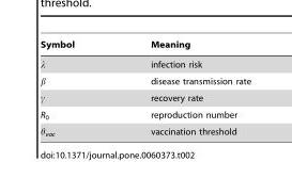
<table><thead><tr><td>Symbol</td><td>Meaning</td></tr></thead><tbody><tr><td>λ</td><td>infection risk</td></tr><tr><td>β</td><td>disease transmission rate</td></tr><tr><td>γ</td><td>recovery rate</td></tr><tr><td>R<sub>0</sub></td><td>reproduction number</td></tr><tr><td>θ<sub>vac</sub></td><td>vaccination threshold</td></tr></tbody></table>